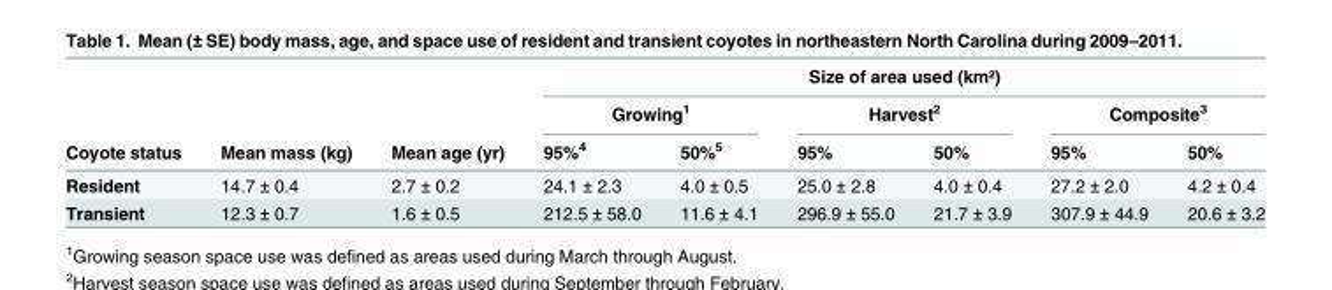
<table><thead><tr><td rowspan="3">Coyote status</td><td rowspan="3">Mean mass (kg)</td><td rowspan="3">Mean age (yr)</td><td colspan="6">Size of area used (km²)</td></tr><tr><td colspan="2">Growing<sup>1</sup></td><td colspan="2">Harvest<sup>2</sup></td><td colspan="2">Composite<sup>3</sup></td></tr><tr><td>95%<sup>4</sup></td><td>50%<sup>5</sup></td><td>95%</td><td>50%</td><td>95%</td><td>50%</td></tr></thead><tbody><tr><td>Resident</td><td>14.7 ± 0.4</td><td>2.7 ± 0.2</td><td>24.1 ± 2.3</td><td>4.0 ± 0.5</td><td>25.0 ± 2.8</td><td>4.0 ± 0.4</td><td>27.2 ± 2.0</td><td>4.2 ± 0.4</td></tr><tr><td>Transient</td><td>12.3 ± 0.7</td><td>1.6 ± 0.5</td><td>212.5 ± 58.0</td><td>11.6 ± 4.1</td><td>296.9 ± 55.0</td><td>21.7 ± 3.9</td><td>307.9 ± 44.9</td><td>20.6 ± 3.2</td></tr></tbody></table>